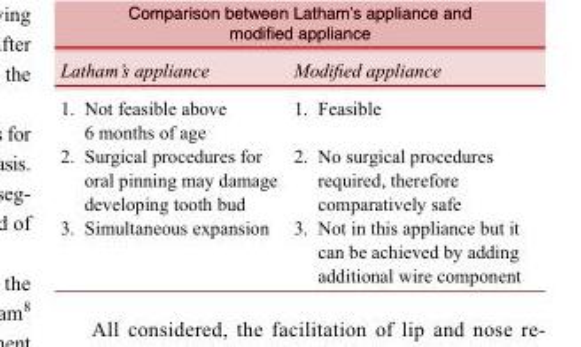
<table><tbody><tr><td colspan="2">Latham’s appliance</td><td colspan="2">Modified appliance</td></tr><tr><td rowspan="2">1.</td><td>Not feasible above</td><td>1.</td><td>Feasible</td></tr><tr><td>6 months of age</td><td></td><td></td></tr><tr><td rowspan="3">2.</td><td>Surgical procedures for</td><td>2.</td><td>No surgical procedures</td></tr><tr><td>oral pinning may damage</td><td></td><td>required, therefore</td></tr><tr><td>developing tooth bud</td><td></td><td>comparatively safe</td></tr><tr><td rowspan="3">3.</td><td>Simultaneous expansion</td><td>3.</td><td>Not in this appliance but it</td></tr><tr><td></td><td></td><td>can be achieved by adding</td></tr><tr><td></td><td></td><td>additional wire component</td></tr></tbody></table>